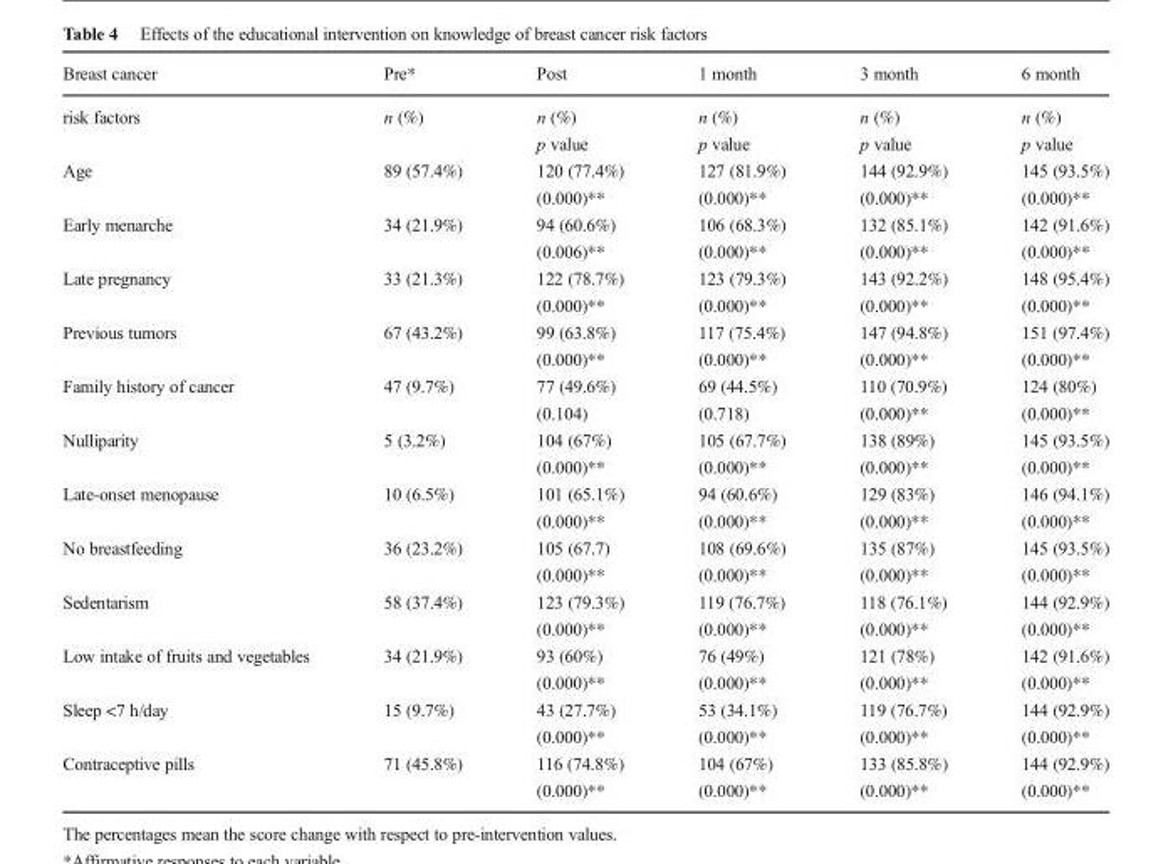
<table><thead><tr><td>Breast cancer</td><td>Pre*</td><td>Post</td><td>1 month</td><td>3 month</td><td>6 month</td></tr></thead><tbody><tr><td rowspan="2">risk factors</td><td>n (%)</td><td>n (%)</td><td>n (%)</td><td>n (%)</td><td>n (%)</td></tr><tr><td></td><td>p value</td><td>p value</td><td>p value</td><td>p value</td></tr><tr><td rowspan="2">Age</td><td>89 (57.4%)</td><td>120 (77.4%)</td><td>127 (81.9%)</td><td>144 (92.9%)</td><td>145 (93.5%)</td></tr><tr><td></td><td>(0.000)**</td><td>(0.000)**</td><td>(0.000)**</td><td>(0.000)**</td></tr><tr><td rowspan="2">Early menarche</td><td>34 (21.9%)</td><td>94 (60.6%)</td><td>106 (68.3%)</td><td>132 (85.1%)</td><td>142 (91.6%)</td></tr><tr><td></td><td>(0.006)**</td><td>(0.000)**</td><td>(0.000)**</td><td>(0.000)**</td></tr><tr><td rowspan="2">Late pregnancy</td><td>33 (21.3%)</td><td>122 (78.7%)</td><td>123 (79.3%)</td><td>143 (92.2%)</td><td>148 (95.4%)</td></tr><tr><td></td><td>(0.000)**</td><td>(0.000)**</td><td>(0.000)**</td><td>(0.000)**</td></tr><tr><td rowspan="2">Previous tumors</td><td>67 (43.2%)</td><td>99 (63.8%)</td><td>117 (75.4%)</td><td>147 (94.8%)</td><td>151 (97.4%)</td></tr><tr><td></td><td>(0.000)**</td><td>(0.000)**</td><td>(0.000)**</td><td>(0.000)**</td></tr><tr><td rowspan="2">Family history of cancer</td><td>47 (9.7%)</td><td>77 (49.6%)</td><td>69 (44.5%)</td><td>110 (70.9%)</td><td>124 (80%)</td></tr><tr><td></td><td>(0.104)</td><td>(0.718)</td><td>(0.000)**</td><td>(0.000)**</td></tr><tr><td rowspan="2">Nulliparity</td><td>5 (3.2%)</td><td>104 (67%)</td><td>105 (67.7%)</td><td>138 (89%)</td><td>145 (93.5%)</td></tr><tr><td></td><td>(0.000)**</td><td>(0.000)**</td><td>(0.000)**</td><td>(0.000)**</td></tr><tr><td rowspan="2">Late-onset menopause</td><td>10 (6.5%)</td><td>101 (65.1%)</td><td>94 (60.6%)</td><td>129 (83%)</td><td>146 (94.1%)</td></tr><tr><td></td><td>(0.000)**</td><td>(0.000)**</td><td>(0.000)**</td><td>(0.000)**</td></tr><tr><td rowspan="2">No breastfeeding</td><td>36 (23.2%)</td><td>105 (67.7)</td><td>108 (69.6%)</td><td>135 (87%)</td><td>145 (93.5%)</td></tr><tr><td></td><td>(0.000)**</td><td>(0.000)**</td><td>(0.000)**</td><td>(0.000)**</td></tr><tr><td rowspan="2">Sedentarism</td><td>58 (37.4%)</td><td>123 (79.3%)</td><td>119 (76.7%)</td><td>118 (76.1%)</td><td>144 (92.9%)</td></tr><tr><td></td><td>(0.000)**</td><td>(0.000)**</td><td>(0.000)**</td><td>(0.000)**</td></tr><tr><td rowspan="2">Low intake of fruits and vegetables</td><td>34 (21.9%)</td><td>93 (60%)</td><td>76 (49%)</td><td>121 (78%)</td><td>142 (91.6%)</td></tr><tr><td></td><td>(0.000)**</td><td>(0.000)**</td><td>(0.000)**</td><td>(0.000)**</td></tr><tr><td rowspan="2">Sleep &lt;7 h/day</td><td>15 (9.7%)</td><td>43 (27.7%)</td><td>53 (34.1%)</td><td>119 (76.7%)</td><td>144 (92.9%)</td></tr><tr><td></td><td>(0.000)**</td><td>(0.000)**</td><td>(0.000)**</td><td>(0.000)**</td></tr><tr><td rowspan="2">Contraceptive pills</td><td>71 (45.8%)</td><td>116 (74.8%)</td><td>104 (67%)</td><td>133 (85.8%)</td><td>144 (92.9%)</td></tr><tr><td></td><td>(0.000)**</td><td>(0.000)**</td><td>(0.000)**</td><td>(0.000)**</td></tr></tbody></table>